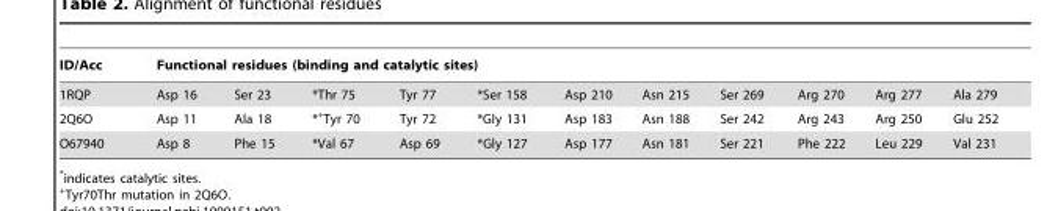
<table><thead><tr><td rowspan="2">ID/Acc 1RQP</td><td colspan="11">Functional residues (binding and catalytic sites)</td></tr><tr><td>Asp 16</td><td>Ser 23</td><td>*Thr 75</td><td>Tyr 77</td><td>*Ser 158</td><td>Asp 210</td><td>Asn 215</td><td>Ser 269</td><td>Arg 270</td><td>Arg 277</td><td>Ala 279</td></tr></thead><tbody><tr><td>2Q6O</td><td>Asp 11</td><td>Ala 18</td><td>*+Tyr 70</td><td>Tyr 72</td><td>*Gly 131</td><td>Asp 183</td><td>Asn 188</td><td>Ser 242</td><td>Arg 243</td><td>Arg 250</td><td>Glu 252</td></tr><tr><td>O67940</td><td>Asp 8</td><td>Phe 15</td><td>*Val 67</td><td>Asp 69</td><td>*Gly 127</td><td>Asp 177</td><td>Asn 181</td><td>Ser 221</td><td>Phe 222</td><td>Leu 229</td><td>Val 231</td></tr></tbody></table>